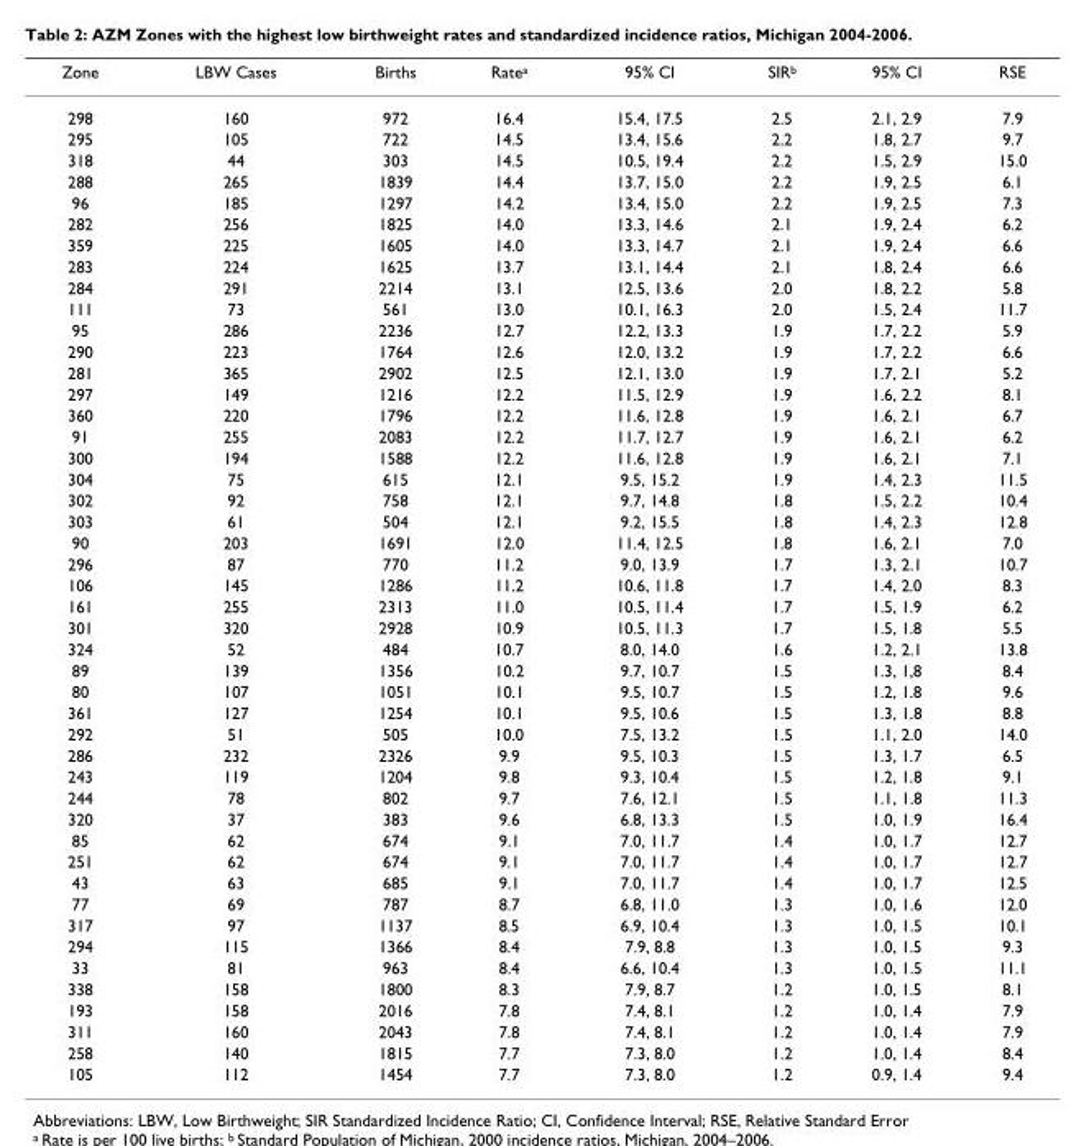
<table><thead><tr><td>Zone</td><td>LBW Cases</td><td>Births</td><td>Rate<sup>a</sup></td><td>95% CI</td><td>SIR<sup>b</sup></td><td>95% CI</td><td>RSE</td></tr></thead><tbody><tr><td>298</td><td>160</td><td>972</td><td>16.4</td><td>15.4, 17.5</td><td>2.5</td><td>2.1, 2.9</td><td>7.9</td></tr><tr><td>295</td><td>105</td><td>722</td><td>14.5</td><td>13.4, 15.6</td><td>2.2</td><td>1.8, 2.7</td><td>9.7</td></tr><tr><td>318</td><td>44</td><td>303</td><td>14.5</td><td>10.5, 19.4</td><td>2.2</td><td>1.5, 2.9</td><td>15.0</td></tr><tr><td>288</td><td>265</td><td>1839</td><td>14.4</td><td>13.7, 15.0</td><td>2.2</td><td>1.9, 2.5</td><td>6.1</td></tr><tr><td>96</td><td>185</td><td>1297</td><td>14.2</td><td>13.4, 15.0</td><td>2.2</td><td>1.9, 2.5</td><td>7.3</td></tr><tr><td>282</td><td>256</td><td>1825</td><td>14.0</td><td>13.3, 14.6</td><td>2.1</td><td>1.9, 2.4</td><td>6.2</td></tr><tr><td>359</td><td>225</td><td>1605</td><td>14.0</td><td>13.3, 14.7</td><td>2.1</td><td>1.9, 2.4</td><td>6.6</td></tr><tr><td>283</td><td>224</td><td>1625</td><td>13.7</td><td>13.1, 14.4</td><td>2.1</td><td>1.8, 2.4</td><td>6.6</td></tr><tr><td>284</td><td>291</td><td>2214</td><td>13.1</td><td>12.5, 13.6</td><td>2.0</td><td>1.8, 2.2</td><td>5.8</td></tr><tr><td>111</td><td>73</td><td>561</td><td>13.0</td><td>10.1, 16.3</td><td>2.0</td><td>1.5, 2.4</td><td>11.7</td></tr><tr><td>95</td><td>286</td><td>2236</td><td>12.7</td><td>12.2, 13.3</td><td>1.9</td><td>1.7, 2.2</td><td>5.9</td></tr><tr><td>290</td><td>223</td><td>1764</td><td>12.6</td><td>12.0, 13.2</td><td>1.9</td><td>1.7, 2.2</td><td>6.6</td></tr><tr><td>281</td><td>365</td><td>2902</td><td>12.5</td><td>12.1, 13.0</td><td>1.9</td><td>1.7, 2.1</td><td>5.2</td></tr><tr><td>297</td><td>149</td><td>1216</td><td>12.2</td><td>11.5, 12.9</td><td>1.9</td><td>1.6, 2.2</td><td>8.1</td></tr><tr><td>360</td><td>220</td><td>1796</td><td>12.2</td><td>11.6, 12.8</td><td>1.9</td><td>1.6, 2.1</td><td>6.7</td></tr><tr><td>91</td><td>255</td><td>2083</td><td>12.2</td><td>11.7, 12.7</td><td>1.9</td><td>1.6, 2.1</td><td>6.2</td></tr><tr><td>300</td><td>194</td><td>1588</td><td>12.2</td><td>11.6, 12.8</td><td>1.9</td><td>1.6, 2.1</td><td>7.1</td></tr><tr><td>304</td><td>75</td><td>615</td><td>12.1</td><td>9.5, 15.2</td><td>1.9</td><td>1.4, 2.3</td><td>11.5</td></tr><tr><td>302</td><td>92</td><td>758</td><td>12.1</td><td>9.7, 14.8</td><td>1.8</td><td>1.5, 2.2</td><td>10.4</td></tr><tr><td>303</td><td>61</td><td>504</td><td>12.1</td><td>9.2, 15.5</td><td>1.8</td><td>1.4, 2.3</td><td>12.8</td></tr><tr><td>90</td><td>203</td><td>1691</td><td>12.0</td><td>11.4, 12.5</td><td>1.8</td><td>1.6, 2.1</td><td>7.0</td></tr><tr><td>296</td><td>87</td><td>770</td><td>11.2</td><td>9.0, 13.9</td><td>1.7</td><td>1.3, 2.1</td><td>10.7</td></tr><tr><td>106</td><td>145</td><td>1286</td><td>11.2</td><td>10.6, 11.8</td><td>1.7</td><td>1.4, 2.0</td><td>8.3</td></tr><tr><td>161</td><td>255</td><td>2313</td><td>11.0</td><td>10.5, 11.4</td><td>1.7</td><td>1.5, 1.9</td><td>6.2</td></tr><tr><td>301</td><td>320</td><td>2928</td><td>10.9</td><td>10.5, 11.3</td><td>1.7</td><td>1.5, 1.8</td><td>5.5</td></tr><tr><td>324</td><td>52</td><td>484</td><td>10.7</td><td>8.0, 14.0</td><td>1.6</td><td>1.2, 2.1</td><td>13.8</td></tr><tr><td>89</td><td>139</td><td>1356</td><td>10.2</td><td>9.7, 10.7</td><td>1.5</td><td>1.3, 1,8</td><td>8.4</td></tr><tr><td>80</td><td>107</td><td>1051</td><td>10.1</td><td>9.5, 10.7</td><td>1.5</td><td>1.2, 1.8</td><td>9.6</td></tr><tr><td>361</td><td>127</td><td>1254</td><td>10.1</td><td>9.5, 10.6</td><td>1.5</td><td>1.3, 1.8</td><td>8.8</td></tr><tr><td>292</td><td>51</td><td>505</td><td>10.0</td><td>7.5, 13.2</td><td>1.5</td><td>1.1, 2.0</td><td>14.0</td></tr><tr><td>286</td><td>232</td><td>2326</td><td>9.9</td><td>9.5, 10.3</td><td>1.5</td><td>1.3, 1.7</td><td>6.5</td></tr><tr><td>243</td><td>119</td><td>1204</td><td>9.8</td><td>9.3, 10.4</td><td>1.5</td><td>1.2, 1.8</td><td>9.1</td></tr><tr><td>244</td><td>78</td><td>802</td><td>9.7</td><td>7.6, 12.1</td><td>1.5</td><td>1.1, 1.8</td><td>11.3</td></tr><tr><td>320</td><td>37</td><td>383</td><td>9.6</td><td>6.8, 13.3</td><td>1.5</td><td>1.0, 1.9</td><td>16.4</td></tr><tr><td>85</td><td>62</td><td>674</td><td>9.1</td><td>7.0, 11.7</td><td>1.4</td><td>1.0, 1.7</td><td>12.7</td></tr><tr><td>251</td><td>62</td><td>674</td><td>9.1</td><td>7.0, 11.7</td><td>1.4</td><td>1.0, 1.7</td><td>12.7</td></tr><tr><td>43</td><td>63</td><td>685</td><td>9.1</td><td>7.0, 11.7</td><td>1.4</td><td>1.0, 1.7</td><td>12.5</td></tr><tr><td>77</td><td>69</td><td>787</td><td>8.7</td><td>6.8, 11.0</td><td>1.3</td><td>1.0, 1.6</td><td>12.0</td></tr><tr><td>317</td><td>97</td><td>1137</td><td>8.5</td><td>6.9, 10.4</td><td>1.3</td><td>1.0, 1.5</td><td>10.1</td></tr><tr><td>294</td><td>115</td><td>1366</td><td>8.4</td><td>7.9, 8.8</td><td>1.3</td><td>1.0, 1.5</td><td>9.3</td></tr><tr><td>33</td><td>81</td><td>963</td><td>8.4</td><td>6.6, 10.4</td><td>1.3</td><td>1.0, 1.5</td><td>11.1</td></tr><tr><td>338</td><td>158</td><td>1800</td><td>8.3</td><td>7.9, 8.7</td><td>1.2</td><td>1.0, 1.5</td><td>8.1</td></tr><tr><td>193</td><td>158</td><td>2016</td><td>7.8</td><td>7.4, 8.1</td><td>1.2</td><td>1.0, 1.4</td><td>7.9</td></tr><tr><td>311</td><td>160</td><td>2043</td><td>7.8</td><td>7.4, 8.1</td><td>1.2</td><td>1.0, 1.4</td><td>7.9</td></tr><tr><td>258</td><td>140</td><td>1815</td><td>7.7</td><td>7.3, 8.0</td><td>1.2</td><td>1.0, 1.4</td><td>8.4</td></tr><tr><td>105</td><td>112</td><td>1454</td><td>7.7</td><td>7.3, 8.0</td><td>1.2</td><td>0.9, 1.4</td><td>9.4</td></tr></tbody></table>